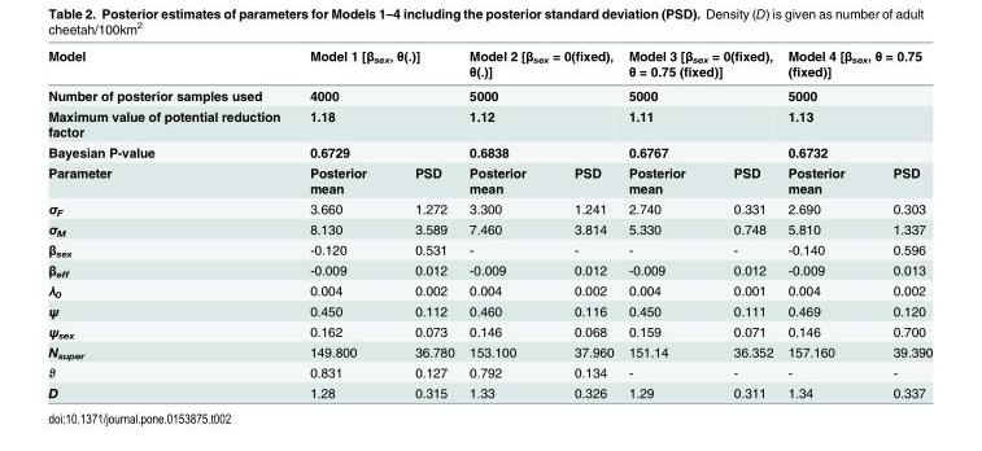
<table><thead><tr><td>Model</td><td colspan="2">Model 1 [β<sub>sex</sub>, θ(.)]</td><td colspan="2">Model 2 [β<sub>sex</sub> = 0(fixed), θ(.)]</td><td colspan="2">Model 3 [β<sub>sex</sub> = 0(fixed), θ = 0.75 (fixed)]</td><td colspan="2">Model 4 [β<sub>sex</sub>, θ = 0.75 (fixed)]</td></tr></thead><tbody><tr><td>Number of posterior samples used</td><td colspan="2">4000</td><td colspan="2">5000</td><td colspan="2">5000</td><td colspan="2">5000</td></tr><tr><td>Maximum value of potential reduction factor</td><td colspan="2">1.18</td><td colspan="2">1.12</td><td colspan="2">1.11</td><td colspan="2">1.13</td></tr><tr><td>Bayesian P-value</td><td colspan="2">0.6729</td><td colspan="2">0.6838</td><td colspan="2">0.6767</td><td colspan="2">0.6732</td></tr><tr><td>Parameter</td><td>Posterior mean</td><td>PSD</td><td>Posterior mean</td><td>PSD</td><td>Posterior mean</td><td>PSD</td><td>Posterior mean</td><td>PSD</td></tr><tr><td>σ<sub>F</sub></td><td>3.660</td><td>1.272</td><td>3.300</td><td>1.241</td><td>2.740</td><td>0.331</td><td>2.690</td><td>0.303</td></tr><tr><td>σ<sub>M</sub></td><td>8.130</td><td>3.589</td><td>7.460</td><td>3.814</td><td>5.330</td><td>0.748</td><td>5.810</td><td>1.337</td></tr><tr><td>β<sub>sex</sub></td><td>-0.120</td><td>0.531</td><td>-</td><td>-</td><td>-</td><td>-</td><td>-0.140</td><td>0.596</td></tr><tr><td>β<sub>eff</sub></td><td>-0.009</td><td>0.012</td><td>-0.009</td><td>0.012</td><td>-0.009</td><td>0.012</td><td>-0.009</td><td>0.013</td></tr><tr><td>λ<sub>0</sub></td><td>0.004</td><td>0.002</td><td>0.004</td><td>0.002</td><td>0.004</td><td>0.001</td><td>0.004</td><td>0.002</td></tr><tr><td>ψ</td><td>0.450</td><td>0.112</td><td>0.460</td><td>0.116</td><td>0.450</td><td>0.111</td><td>0.469</td><td>0.120</td></tr><tr><td>ψ<sub>sex</sub></td><td>0.162</td><td>0.073</td><td>0.146</td><td>0.068</td><td>0.159</td><td>0.071</td><td>0.146</td><td>0.700</td></tr><tr><td>N<sub>super</sub></td><td>149.800</td><td>36.780</td><td>153.100</td><td>37.960</td><td>151.14</td><td>36.352</td><td>157.160</td><td>39.390</td></tr><tr><td>ϑ</td><td>0.831</td><td>0.127</td><td>0.792</td><td>0.134</td><td>-</td><td>-</td><td>-</td><td>-</td></tr><tr><td>D</td><td>1.28</td><td>0.315</td><td>1.33</td><td>0.326</td><td>1.29</td><td>0.311</td><td>1.34</td><td>0.337</td></tr></tbody></table>